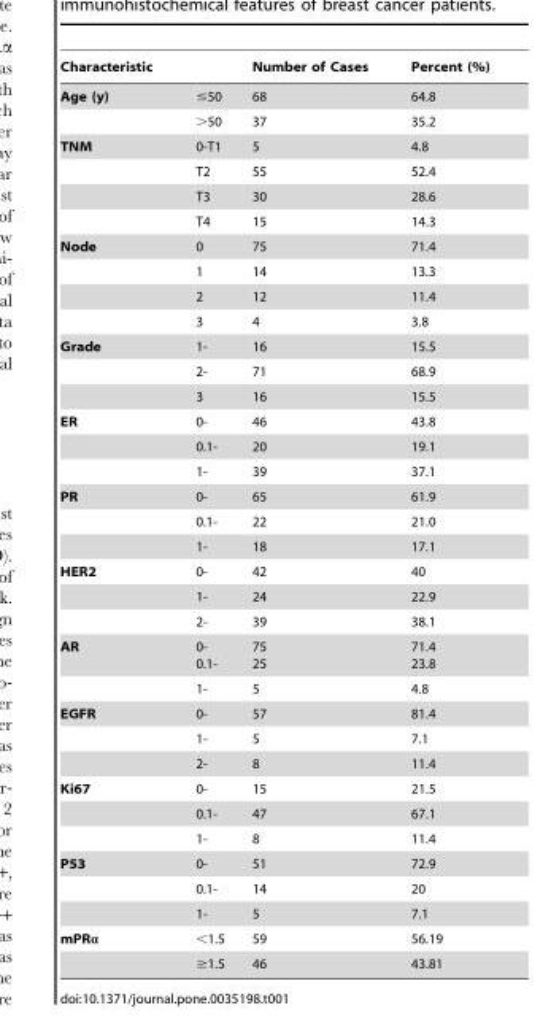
<table><thead><tr><td>Characteristic</td><td></td><td>Number of Cases</td><td>Percent (%)</td></tr></thead><tbody><tr><td rowspan="2">Age (y)</td><td>≤50</td><td>68</td><td>64.8</td></tr><tr><td>&gt;50</td><td>37</td><td>35.2</td></tr><tr><td rowspan="4">TNM</td><td>0-T1</td><td>5</td><td>4.8</td></tr><tr><td>T2</td><td>55</td><td>52.4</td></tr><tr><td>T3</td><td>30</td><td>28.6</td></tr><tr><td>T4</td><td>15</td><td>14.3</td></tr><tr><td rowspan="4">Node</td><td>0</td><td>75</td><td>71.4</td></tr><tr><td>1</td><td>14</td><td>13.3</td></tr><tr><td>2</td><td>12</td><td>11.4</td></tr><tr><td>3</td><td>4</td><td>3.8</td></tr><tr><td rowspan="3">Grade</td><td>1-</td><td>16</td><td>15.5</td></tr><tr><td>2-</td><td>71</td><td>68.9</td></tr><tr><td>3</td><td>16</td><td>15.5</td></tr><tr><td rowspan="3">ER</td><td>0-</td><td>46</td><td>43.8</td></tr><tr><td>0.1-</td><td>20</td><td>19.1</td></tr><tr><td>1-</td><td>39</td><td>37.1</td></tr><tr><td rowspan="3">PR</td><td>0-</td><td>65</td><td>61.9</td></tr><tr><td>0.1-</td><td>22</td><td>21.0</td></tr><tr><td>1-</td><td>18</td><td>17.1</td></tr><tr><td rowspan="3">HER2</td><td>0-</td><td>42</td><td>40</td></tr><tr><td>1-</td><td>24</td><td>22.9</td></tr><tr><td>2-</td><td>39</td><td>38.1</td></tr><tr><td rowspan="2">AR</td><td>0- 0.1-</td><td>75 25</td><td>71.4 23.8</td></tr><tr><td>1-</td><td>5</td><td>4.8</td></tr><tr><td rowspan="3">EGFR</td><td>0-</td><td>57</td><td>81.4</td></tr><tr><td>1-</td><td>5</td><td>7.1</td></tr><tr><td>2-</td><td>8</td><td>11.4</td></tr><tr><td rowspan="3">Ki67</td><td>0-</td><td>15</td><td>21.5</td></tr><tr><td>0.1-</td><td>47</td><td>67.1</td></tr><tr><td>1-</td><td>8</td><td>11.4</td></tr><tr><td rowspan="3">P53</td><td>0-</td><td>51</td><td>72.9</td></tr><tr><td>0.1-</td><td>14</td><td>20</td></tr><tr><td>1-</td><td>5</td><td>7.1</td></tr><tr><td rowspan="2">mPRα</td><td>&lt;1.5</td><td>59</td><td>56.19</td></tr><tr><td>≥1.5</td><td>46</td><td>43.81</td></tr></tbody></table>